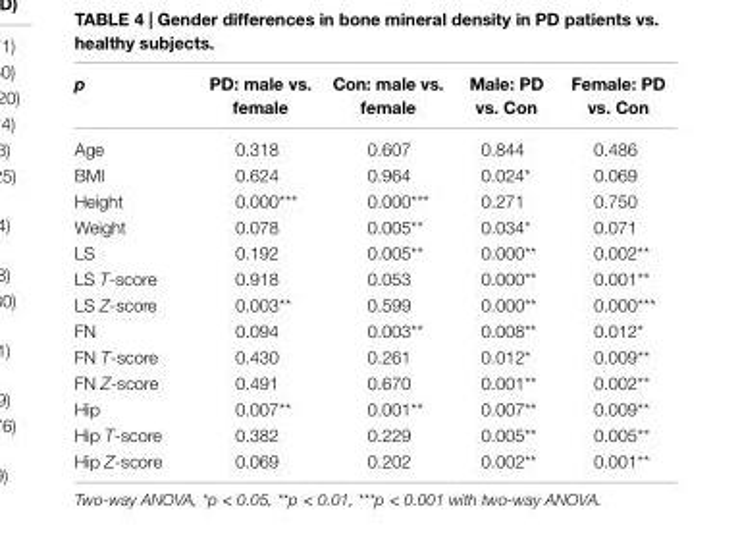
<table><thead><tr><td>p</td><td>PD: male vs. female</td><td>con: male vs. female</td><td>Male: PD vs. con</td><td>Female: PD vs. con</td></tr></thead><tbody><tr><td>Age</td><td>0.318</td><td>0.607</td><td>0.844</td><td>0.486</td></tr><tr><td>BMI</td><td>0.624</td><td>0.964</td><td>0.024*</td><td>0.069</td></tr><tr><td>Height</td><td>0.000***</td><td>0.000***</td><td>0.271</td><td>0.750</td></tr><tr><td>Weight</td><td>0.078</td><td>0.005**</td><td>0.034*</td><td>0.071</td></tr><tr><td>LS</td><td>0.192</td><td>0.005**</td><td>0.000**</td><td>0.002**</td></tr><tr><td>LS T-score</td><td>0.918</td><td>0.053</td><td>0.000**</td><td>0.001**</td></tr><tr><td>LS Z-score</td><td>0.003**</td><td>0.599</td><td>0.000**</td><td>0.000***</td></tr><tr><td>FN</td><td>0.094</td><td>0.003**</td><td>0.008**</td><td>0.012*</td></tr><tr><td>FN T-score</td><td>0.430</td><td>0.261</td><td>0.012*</td><td>0.009**</td></tr><tr><td>FN Z-score</td><td>0.491</td><td>0.670</td><td>0.001**</td><td>0.002**</td></tr><tr><td>Hip</td><td>0.007**</td><td>0.001**</td><td>0.007**</td><td>0.009**</td></tr><tr><td>Hip T-score</td><td>0.382</td><td>0.229</td><td>0.005**</td><td>0.005**</td></tr><tr><td>Hip Z-score</td><td>0.069</td><td>0.202</td><td>0.002**</td><td>0.001**</td></tr></tbody></table>